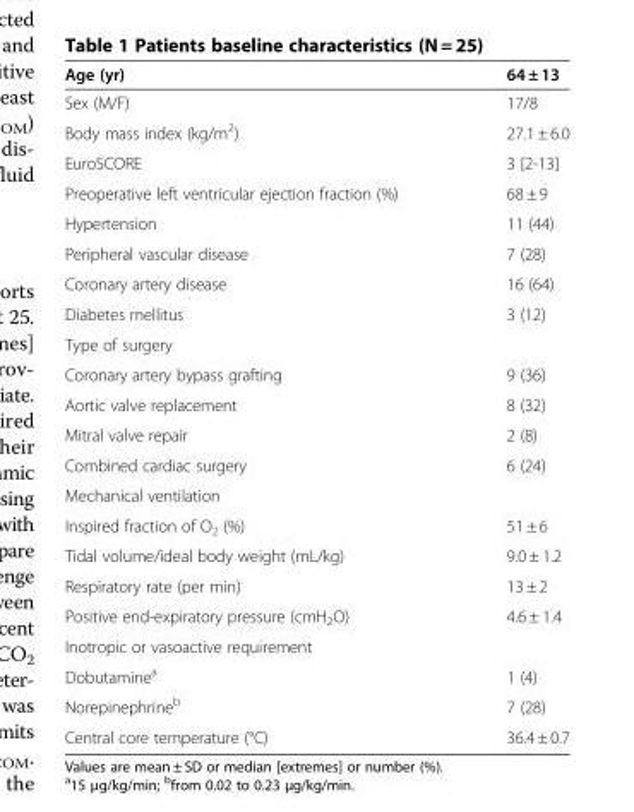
<table><thead><tr><td>Age (yr)</td><td>64 ± 13</td></tr></thead><tbody><tr><td>Sex (M/F)</td><td>17/8</td></tr><tr><td>Body mass index (kg/m<sup>2</sup>)</td><td>27.1 ± 6.0</td></tr><tr><td>EuroSCORE</td><td>3 [2-13]</td></tr><tr><td>Preoperative left ventricular ejection fraction (%)</td><td>68 ± 9</td></tr><tr><td>Hypertension</td><td>11 (44)</td></tr><tr><td>Peripheral vascular disease</td><td>7 (28)</td></tr><tr><td>Coronary artery disease</td><td>16 (64)</td></tr><tr><td>Diabetes mellitus</td><td>3 (12)</td></tr><tr><td colspan="2">Type of surgery</td></tr><tr><td>Coronary artery bypass grafting</td><td>9 (36)</td></tr><tr><td>Aortic valve replacement</td><td>8 (32)</td></tr><tr><td>Mitral valve repair</td><td>2 (8)</td></tr><tr><td>Combined cardiac surgery</td><td>6 (24)</td></tr><tr><td colspan="2">Mechanical ventilation</td></tr><tr><td>Inspired fraction of O<sub>2</sub> (%)</td><td>51 ± 6</td></tr><tr><td>Tidal volume/ideal body weight (mL/kg)</td><td>9.0 ± 1.2</td></tr><tr><td>Respiratory rate (per min)</td><td>13 ± 2</td></tr><tr><td>Positive end-expiratory pressure (cmH<sub>2</sub>O)</td><td>4.6 ± 1.4</td></tr><tr><td colspan="2">Inotropic or vasoactive requirement</td></tr><tr><td>Dobutamine<sup>a</sup></td><td>1 (4)</td></tr><tr><td>Norepinephrine<sup>b</sup></td><td>7 (28)</td></tr><tr><td>Central core temperature (°C)</td><td>36.4 ± 0.7</td></tr></tbody></table>